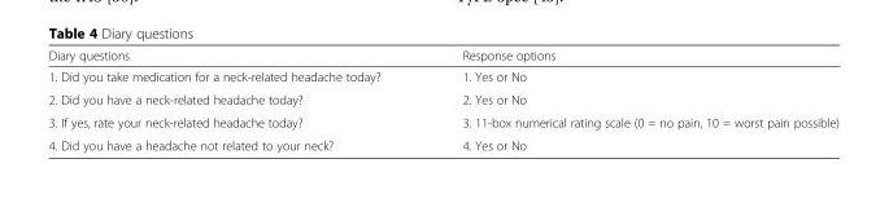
<table><thead><tr><td>Diary questions</td><td>Response options</td></tr></thead><tbody><tr><td>1. Did you take medication for a neck-related headache today?</td><td>1. Yes or No</td></tr><tr><td>2. Did you have a neck-related headache today?</td><td>2. Yes or No</td></tr><tr><td>3. If yes, rate your neck-related headache today?</td><td>3. 11-box numerical rating scale (0 = no pain, 10 = worst pain possible)</td></tr><tr><td>4. Did you have a headache not related to your neck?</td><td>4. Yes or No</td></tr></tbody></table>